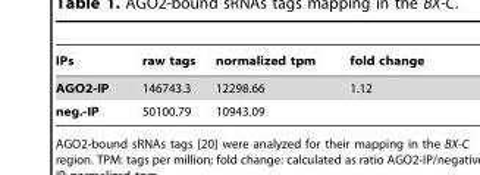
<table><thead><tr><td>IPs</td><td>raw tags</td><td>normalized tpm</td><td>fold change</td></tr></thead><tbody><tr><td>AGO2-IP</td><td>146743.3</td><td>12298.66</td><td>1.12</td></tr><tr><td>neg.-IP</td><td>50100.79</td><td>10943.09</td><td></td></tr></tbody></table>